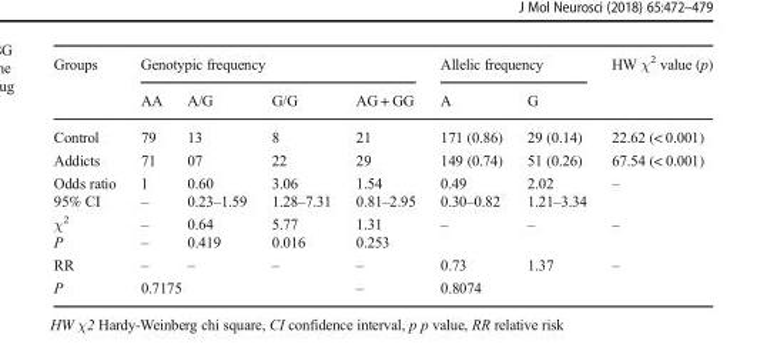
<table><thead><tr><td rowspan="2">Groups</td><td colspan="4">Genotypic frequency</td><td colspan="2">Allelic frequency</td><td rowspan="2">HW χ<sup>2</sup> value (p)</td></tr><tr><td>AA</td><td>A/G</td><td>G/G</td><td>AG + GG</td><td>A</td><td>G</td></tr></thead><tbody><tr><td>Control</td><td>79</td><td>13</td><td>8</td><td>21</td><td>171 (0.86)</td><td>29 (0.14)</td><td>22.62 (&lt; 0.001)</td></tr><tr><td>Addicts</td><td>71</td><td>07</td><td>22</td><td>29</td><td>149 (0.74)</td><td>51 (0.26)</td><td>67.54 (&lt; 0.001)</td></tr><tr><td>Odds ratio</td><td>1</td><td>0.60</td><td>3.06</td><td>1.54</td><td>0.49</td><td>2.02</td><td rowspan="2">–</td></tr><tr><td>95% CI</td><td>–</td><td>0.23–1.59</td><td>1.28–7.31</td><td>0.81–2.95</td><td>0.30–0.82</td><td>1.21–3.34</td></tr><tr><td>χ<sup>2</sup></td><td>–</td><td>0.64</td><td>5.77</td><td>1.31</td><td rowspan="2">–</td><td rowspan="2">–</td><td rowspan="2">–</td></tr><tr><td>P</td><td>–</td><td>0.419</td><td>0.016</td><td>0.253</td></tr><tr><td>RR</td><td>–</td><td>–</td><td>–</td><td>–</td><td>0.73</td><td>1.37</td><td>–</td></tr><tr><td>P</td><td colspan="3">0.7175</td><td>–</td><td colspan="2">0.8074</td><td></td></tr></tbody></table>